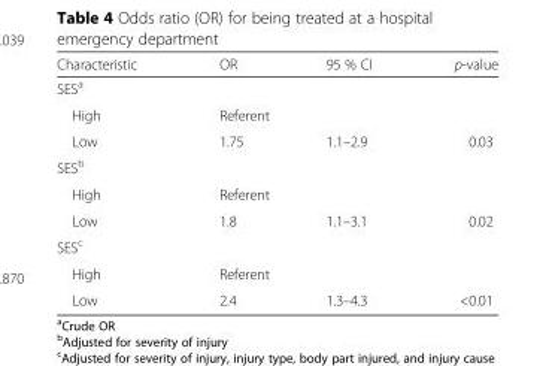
<table><thead><tr><td>Characteristic</td><td>OR</td><td>95 % CI</td><td>p-value</td></tr></thead><tbody><tr><td colspan="4">SES<sup>a</sup></td></tr><tr><td>High</td><td colspan="3">Referent</td></tr><tr><td>Low</td><td>1.75</td><td>1.1–2.9</td><td>0.03</td></tr><tr><td colspan="4">SES<sup>b</sup></td></tr><tr><td>High</td><td colspan="3">Referent</td></tr><tr><td>Low</td><td>1.8</td><td>1.1–3.1</td><td>0.02</td></tr><tr><td colspan="4">SES<sup>c</sup></td></tr><tr><td>High</td><td colspan="3">Referent</td></tr><tr><td>Low</td><td>2.4</td><td>1.3–4.3</td><td>&lt;0.01</td></tr></tbody></table>